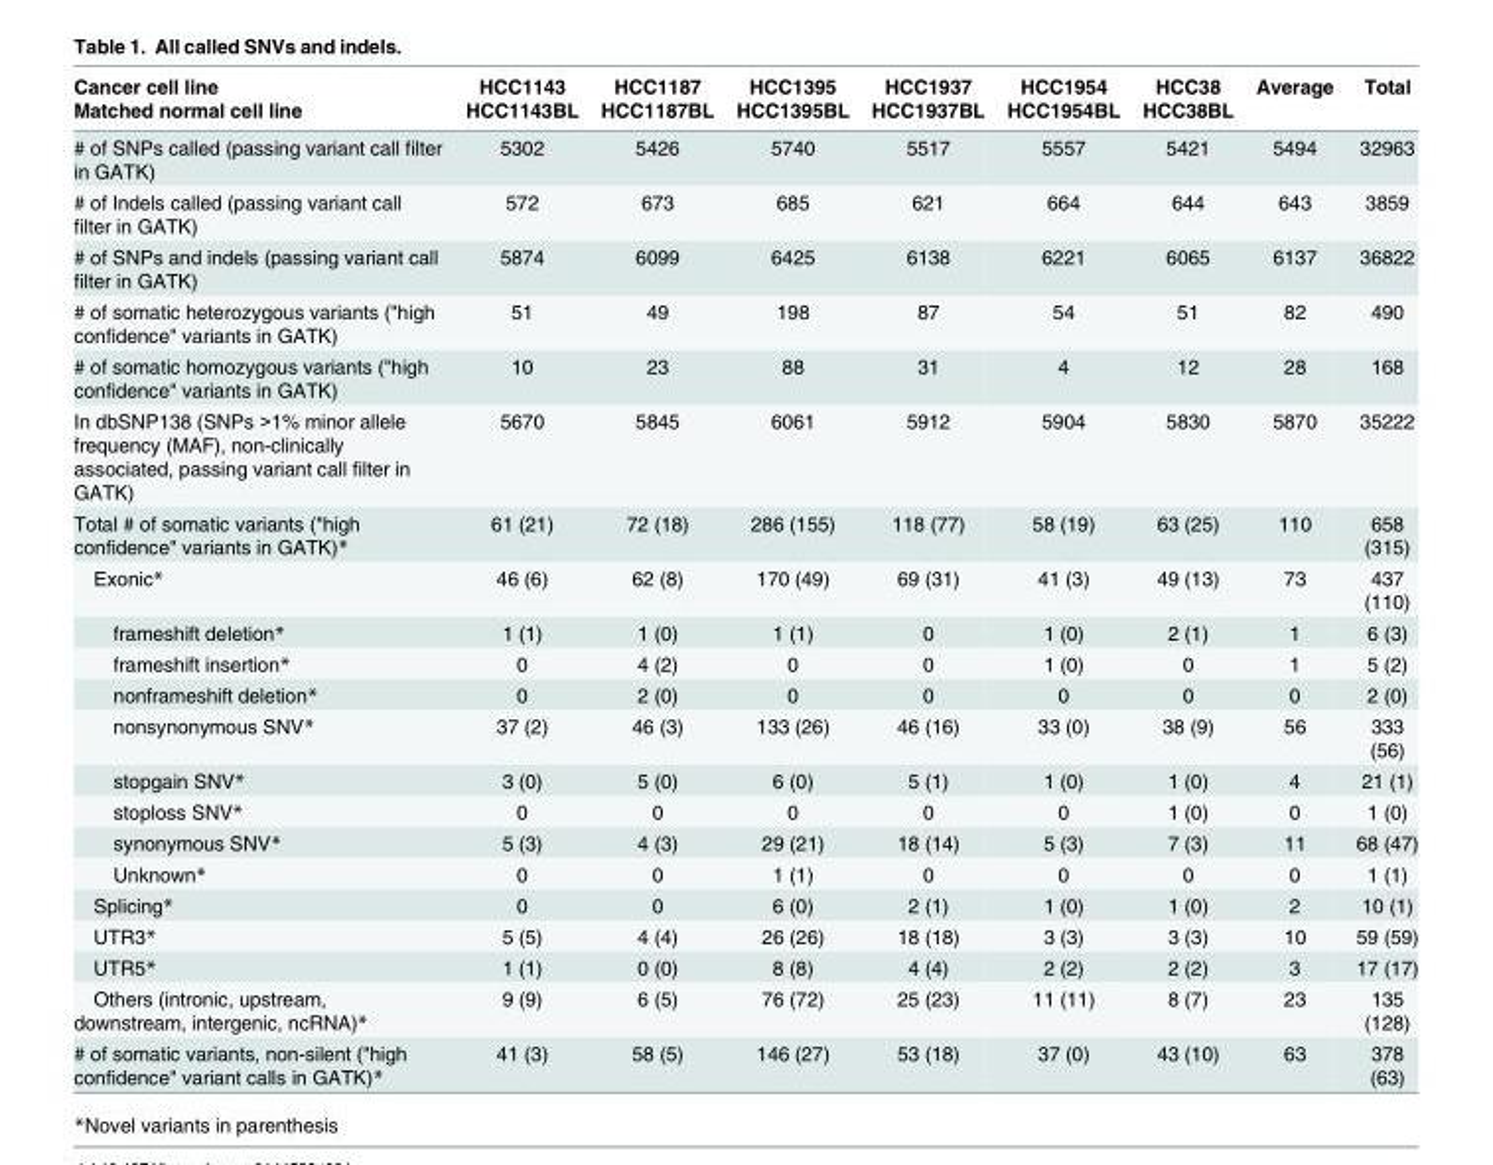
<table><thead><tr><td rowspan="2">Cancer cell line Matched normal cell line</td><td rowspan="2">HCC1143 HCC1143BL</td><td rowspan="2">HCC1187 HCC1187BL</td><td rowspan="2">HCC1395 HCC1395BL</td><td rowspan="2">HCC1937 HCC1937BL</td><td rowspan="2">HCC1954 HCC1954BL</td><td rowspan="2">HCC38 HCC38BL</td><td rowspan="2">Average</td><td rowspan="2">Total</td></tr><tr></tr></thead><tbody><tr><td># of SNPs called (passing variant call filter in GATK)</td><td>5302</td><td>5426</td><td>5740</td><td>5517</td><td>5557</td><td>5421</td><td>5494</td><td>32963</td></tr><tr><td># of Indels called (passing variant call filter in GATK)</td><td>572</td><td>673</td><td>685</td><td>621</td><td>664</td><td>644</td><td>643</td><td>3859</td></tr><tr><td># of SNPs and indels (passing variant call filter in GATK)</td><td>5874</td><td>6099</td><td>6425</td><td>6138</td><td>6221</td><td>6065</td><td>6137</td><td>36822</td></tr><tr><td># of somatic heterozygous variants (&quot;high confidence&quot; variants in GATK)</td><td>51</td><td>49</td><td>198</td><td>87</td><td>54</td><td>51</td><td>82</td><td>490</td></tr><tr><td># of somatic homozygous variants (&quot;high confidence&quot; variants in GATK)</td><td>10</td><td>23</td><td>88</td><td>31</td><td>4</td><td>12</td><td>28</td><td>168</td></tr><tr><td>In dbSNP138 (SNPs &gt;1% minor allele frequency (MAF), non-clinically associated, passing variant call filter in GATK)</td><td>5670</td><td>5845</td><td>6061</td><td>5912</td><td>5904</td><td>5830</td><td>5870</td><td>35222</td></tr><tr><td>Total # of somatic variants (&quot;high confidence&quot; variants in GATK)*</td><td>61 (21)</td><td>72 (18)</td><td>286 (155)</td><td>118 (77)</td><td>58 (19)</td><td>63 (25)</td><td>110</td><td>658 (315)</td></tr><tr><td>Exonic*</td><td>46 (6)</td><td>62 (8)</td><td>170 (49)</td><td>69 (31)</td><td>41 (3)</td><td>49 (13)</td><td>73</td><td>437 (110)</td></tr><tr><td>frameshift deletion*</td><td>1 (1)</td><td>1 (0)</td><td>1 (1)</td><td>0</td><td>1 (0)</td><td>2 (1)</td><td>1</td><td>6 (3)</td></tr><tr><td>frameshift insertion*</td><td>0</td><td>4 (2)</td><td>0</td><td>0</td><td>1 (0)</td><td>0</td><td>1</td><td>5 (2)</td></tr><tr><td>nonframeshift deletion*</td><td>0</td><td>2 (0)</td><td>0</td><td>0</td><td>0</td><td>0</td><td>0</td><td>2 (0)</td></tr><tr><td>nonsynonymous SNV*</td><td>37 (2)</td><td>46 (3)</td><td>133 (26)</td><td>46 (16)</td><td>33 (0)</td><td>38 (9)</td><td>56</td><td>333 (56)</td></tr><tr><td>stopgain SNV*</td><td>3 (0)</td><td>5 (0)</td><td>6 (0)</td><td>5 (1)</td><td>1 (0)</td><td>1 (0)</td><td>4</td><td>21 (1)</td></tr><tr><td>stoploss SNV*</td><td>0</td><td>0</td><td>0</td><td>0</td><td>0</td><td>1 (0)</td><td>0</td><td>1 (0)</td></tr><tr><td>synonymous SNV*</td><td>5 (3)</td><td>4 (3)</td><td>29 (21)</td><td>18 (14)</td><td>5 (3)</td><td>7 (3)</td><td>11</td><td>68 (47)</td></tr><tr><td>Unknown*</td><td>0</td><td>0</td><td>1 (1)</td><td>0</td><td>0</td><td>0</td><td>0</td><td>1 (1)</td></tr><tr><td>Splicing*</td><td>0</td><td>0</td><td>6 (0)</td><td>2 (1)</td><td>1 (0)</td><td>1 (0)</td><td>2</td><td>10 (1)</td></tr><tr><td>UTR3*</td><td>5 (5)</td><td>4 (4)</td><td>26 (26)</td><td>18 (18)</td><td>3 (3)</td><td>3 (3)</td><td>10</td><td>59 (59)</td></tr><tr><td>UTR5*</td><td>1 (1)</td><td>0 (0)</td><td>8 (8)</td><td>4 (4)</td><td>2 (2)</td><td>2 (2)</td><td>3</td><td>17 (17)</td></tr><tr><td>Others (intronic, upstream, downstream, intergenic, ncRNA)*</td><td>9 (9)</td><td>6 (5)</td><td>76 (72)</td><td>25 (23)</td><td>11 (11)</td><td>8 (7)</td><td>23</td><td>135 (128)</td></tr><tr><td># of somatic variants, non-silent (&quot;high confidence&quot; variant calls in GATK)*</td><td>41 (3)</td><td>58 (5)</td><td>146 (27)</td><td>53 (18)</td><td>37 (0)</td><td>43 (10)</td><td>63</td><td>378 (63)</td></tr></tbody></table>